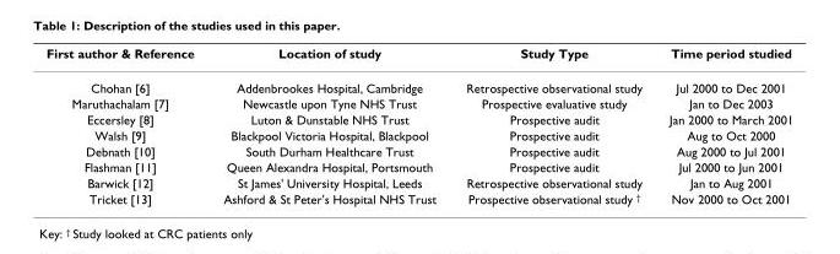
<table><thead><tr><td>First author &amp; Reference</td><td>Location of study</td><td>Study Type</td><td>Time period studied</td></tr></thead><tbody><tr><td>Chohan [6]</td><td>Addenbrookes Hospital, Cambridge</td><td>Retrospective observational study</td><td>Jul 2000 to Dec 2001</td></tr><tr><td>Maruthachalam [7]</td><td>Newcastle upon Tyne NHS Trust</td><td>Prospective evaluative study</td><td>Jan to Dec 2003</td></tr><tr><td>Eccersley [8]</td><td>Luton &amp; Dunstable NHS Trust</td><td>Prospective audit</td><td>Jan 2000 to March 2001</td></tr><tr><td>Walsh [9]</td><td>Blackpool Victoria Hospital, Blackpool</td><td>Prospective audit</td><td>Aug to Oct 2000</td></tr><tr><td>Debnath [10]</td><td>South Durham Healthcare Trust</td><td>Prospective audit</td><td>Aug 2000 to Jul 2001</td></tr><tr><td>Flashman [11]</td><td>Queen Alexandra Hospital, Portsmouth</td><td>Prospective audit</td><td>Jul 2000 to Jun 2001</td></tr><tr><td>Barwick [12]</td><td>St James&#x27; University Hospital, Leeds</td><td>Retrospective observational study</td><td>Jan to Aug 2001</td></tr><tr><td>Tricket [13]</td><td>Ashford &amp; St Peter&#x27;s Hospital NHS Trust</td><td>Prospective observational study †</td><td>Nov 2000 to Oct 2001</td></tr></tbody></table>